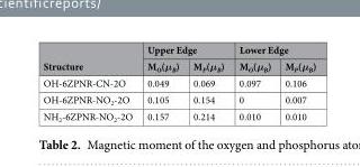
<table><thead><tr><td rowspan="2">Structure</td><td colspan="2">Upper Edge</td><td colspan="2">Lower Edge</td></tr><tr><td>M<sub>O</sub>(μ<sub>B</sub>)</td><td>M<sub>P</sub>(μ<sub>B</sub>)</td><td>M<sub>O</sub>(μ<sub>B</sub>)</td><td>M<sub>P</sub>(μ<sub>B</sub>)</td></tr></thead><tbody><tr><td>OH-6ZPNR-CN-2O</td><td>0.049</td><td>0.069</td><td>0.097</td><td>0.106</td></tr><tr><td>OH-6ZPNR-NO<sub>2</sub>-2O</td><td>0.105</td><td>0.154</td><td>0</td><td>0.007</td></tr><tr><td>NH<sub>2</sub>-6ZPNR-NO<sub>2</sub>-2O</td><td>0.157</td><td>0.214</td><td>0.010</td><td>0.010</td></tr></tbody></table>